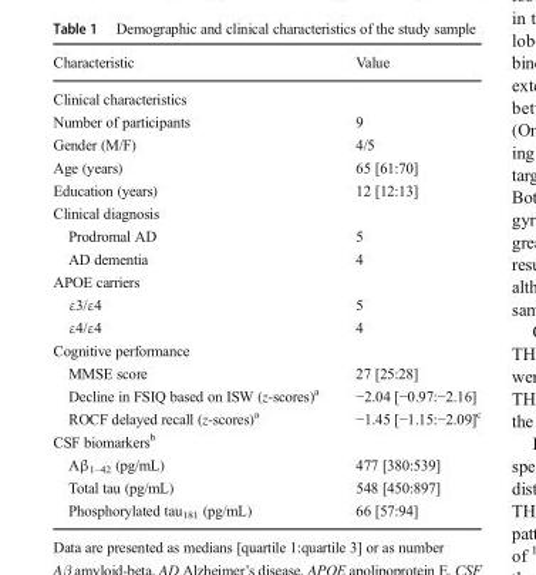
<table><thead><tr><td>Characteristic</td><td>Value</td></tr></thead><tbody><tr><td colspan="2">Clinical characteristics</td></tr><tr><td>Number of participants</td><td>9</td></tr><tr><td>Gender (M/F)</td><td>4/5</td></tr><tr><td>Age (years)</td><td>65 [61:70]</td></tr><tr><td>Education (years)</td><td>12 [12:13]</td></tr><tr><td colspan="2">Clinical diagnosis</td></tr><tr><td>Prodromal AD</td><td>5</td></tr><tr><td>AD dementia</td><td>4</td></tr><tr><td colspan="2">APOE carriers</td></tr><tr><td>ε3/ε4</td><td>5</td></tr><tr><td>ε4/ε4</td><td>4</td></tr><tr><td colspan="2">Cognitive performance</td></tr><tr><td>MMSE score</td><td>27 [25:28]</td></tr><tr><td>Decline in FSIQ based on ISW (z-scores)<sup>a</sup></td><td>−2.04 [−0.97:−2.16]</td></tr><tr><td>ROCF delayed recall (z-scores)<sup>a</sup></td><td>−1.45 [−1.15:−2.09]<sup>c</sup></td></tr><tr><td colspan="2">CSF biomarkers<sup>b</sup></td></tr><tr><td>Aβ<sub>1–42</sub> (pg/mL)</td><td>477 [380:539]</td></tr><tr><td>Total tau (pg/mL)</td><td>548 [450:897]</td></tr><tr><td>Phosphorylated tau<sub>181</sub> (pg/mL)</td><td>66 [57:94]</td></tr></tbody></table>